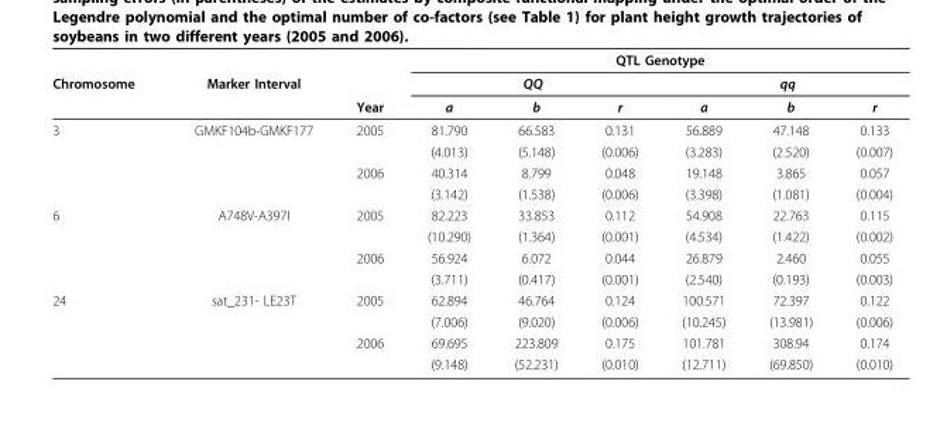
<table><thead><tr><td rowspan="3">Chromosome</td><td rowspan="3">Marker Interval</td><td rowspan="3">Year</td><td colspan="6">QTL Genotype</td></tr><tr><td colspan="3">QQ</td><td colspan="3">qq</td></tr><tr><td>a</td><td>b</td><td>r</td><td>a</td><td>b</td><td>r</td></tr></thead><tbody><tr><td rowspan="4">3</td><td>GMKF104b-GMKF177</td><td>2005</td><td>81.790</td><td>66.583</td><td>0.131</td><td>56.889</td><td>47.148</td><td>0.133</td></tr><tr><td></td><td></td><td>(4.013)</td><td>(5.148)</td><td>(0.006)</td><td>(3.283)</td><td>(2.520)</td><td>(0.007)</td></tr><tr><td></td><td>2006</td><td>40.314</td><td>8.799</td><td>0.048</td><td>19.148</td><td>3.865</td><td>0.057</td></tr><tr><td></td><td></td><td>(3.142)</td><td>(1.538)</td><td>(0.006)</td><td>(3.398)</td><td>(1.081)</td><td>(0.004)</td></tr><tr><td rowspan="4">6</td><td>A748V-A397I</td><td>2005</td><td>82.223</td><td>33.853</td><td>0.112</td><td>54.908</td><td>22.763</td><td>0.115</td></tr><tr><td></td><td></td><td>(10.290)</td><td>(1.364)</td><td>(0.001)</td><td>(4.534)</td><td>(1.422)</td><td>(0.002)</td></tr><tr><td></td><td>2006</td><td>56.924</td><td>6.072</td><td>0.044</td><td>26.879</td><td>2.460</td><td>0.055</td></tr><tr><td></td><td></td><td>(3.711)</td><td>(0.417)</td><td>(0.001)</td><td>(2.540)</td><td>(0.193)</td><td>(0.003)</td></tr><tr><td rowspan="4">24</td><td>sat_231- LE23T</td><td>2005</td><td>62.894</td><td>46.764</td><td>0.124</td><td>100.571</td><td>72.397</td><td>0.122</td></tr><tr><td></td><td></td><td>(7.006)</td><td>(9.020)</td><td>(0.006)</td><td>(10.245)</td><td>(13.981)</td><td>(0.006)</td></tr><tr><td></td><td>2006</td><td>69.695</td><td>223.809</td><td>0.175</td><td>101.781</td><td>308.94</td><td>0.174</td></tr><tr><td></td><td></td><td>(9.148)</td><td>(52.231)</td><td>(0.010)</td><td>(12.711)</td><td>(69.850)</td><td>(0.010)</td></tr></tbody></table>